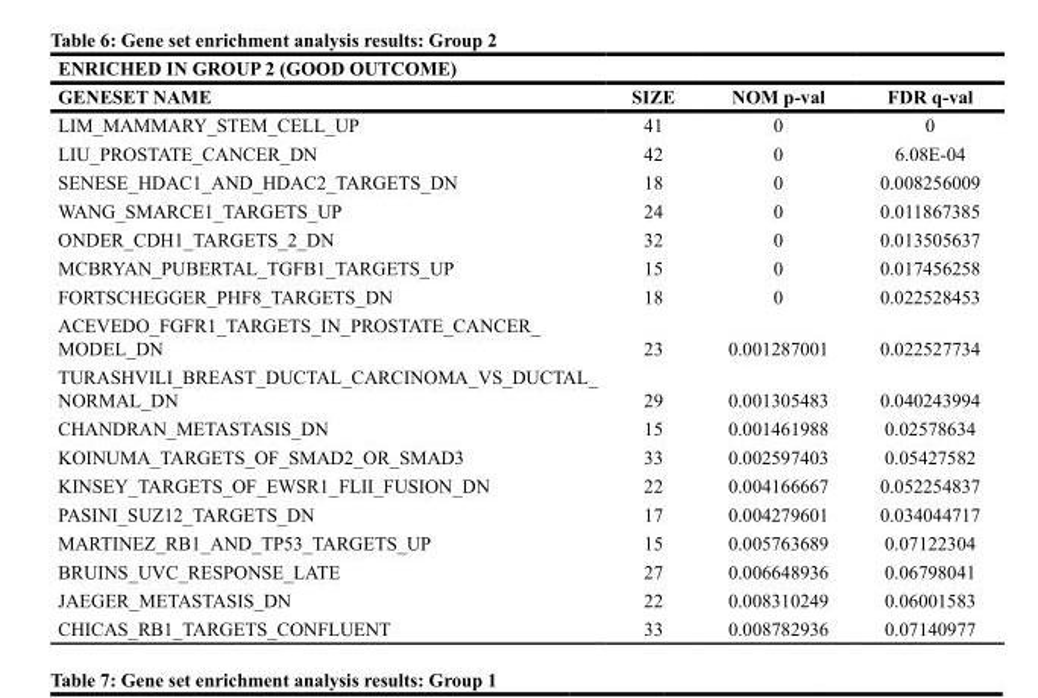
<table><thead><tr><td>ENRICHED IN GROUP 2 (GOOD OUTCOME)</td><td></td><td></td><td></td></tr></thead><tbody><tr><td>GENESET NAME</td><td>SIZE</td><td>NOM p-val</td><td>FDR q-val</td></tr><tr><td>LIM_MAMMARY_STEM_CELL_UP</td><td>41</td><td>0</td><td>0</td></tr><tr><td>LIU_PROSTATE_CANCER_DN</td><td>42</td><td>0</td><td>6.08E-04</td></tr><tr><td>SENESE_HDAC1_AND_HDAC2_TARGETS_DN</td><td>18</td><td>0</td><td>0.008256009</td></tr><tr><td>WANG_SMARCE1_TARGETS_UP</td><td>24</td><td>0</td><td>0.011867385</td></tr><tr><td>ONDER_CDH1_TARGETS_2_DN</td><td>32</td><td>0</td><td>0.013505637</td></tr><tr><td>MCBRYAN_PUBERTAL_TGFB1_TARGETS_UP</td><td>15</td><td>0</td><td>0.017456258</td></tr><tr><td>FORTSCHEGGER_PHF8_TARGETS_DN</td><td>18</td><td>0</td><td>0.022528453</td></tr><tr><td>ACEVEDO_FGFR1_TARGETS_IN_PROSTATE_CANCER_ MODEL_DN</td><td>23</td><td>0.001287001</td><td>0.022527734</td></tr><tr><td>TURASHVILI_BREAST_DUCTAL_CARCINOMA_VS_DUCTAL_ NORMAL_DN</td><td>29</td><td>0.001305483</td><td>0.040243994</td></tr><tr><td>CHANDRAN_METASTASIS_DN</td><td>15</td><td>0.001461988</td><td>0.02578634</td></tr><tr><td>KOINUMA_TARGETS_OF_SMAD2_OR_SMAD3</td><td>33</td><td>0.002597403</td><td>0.05427582</td></tr><tr><td>KINSEY_TARGETS_OF_EWSR1_FLII_FUSION_DN</td><td>22</td><td>0.004166667</td><td>0.052254837</td></tr><tr><td>PASINI_SUZ12_TARGETS_DN</td><td>17</td><td>0.004279601</td><td>0.034044717</td></tr><tr><td>MARTINEZ_RB1_AND_TP53_TARGETS_UP</td><td>15</td><td>0.005763689</td><td>0.07122304</td></tr><tr><td>BRUINS_UVC_RESPONSE_LATE</td><td>27</td><td>0.006648936</td><td>0.06798041</td></tr><tr><td>JAEGER_METASTASIS_DN</td><td>22</td><td>0.008310249</td><td>0.06001583</td></tr><tr><td>CHICAS_RB1_TARGETS_CONFLUENT</td><td>33</td><td>0.008782936</td><td>0.07140977</td></tr></tbody></table>